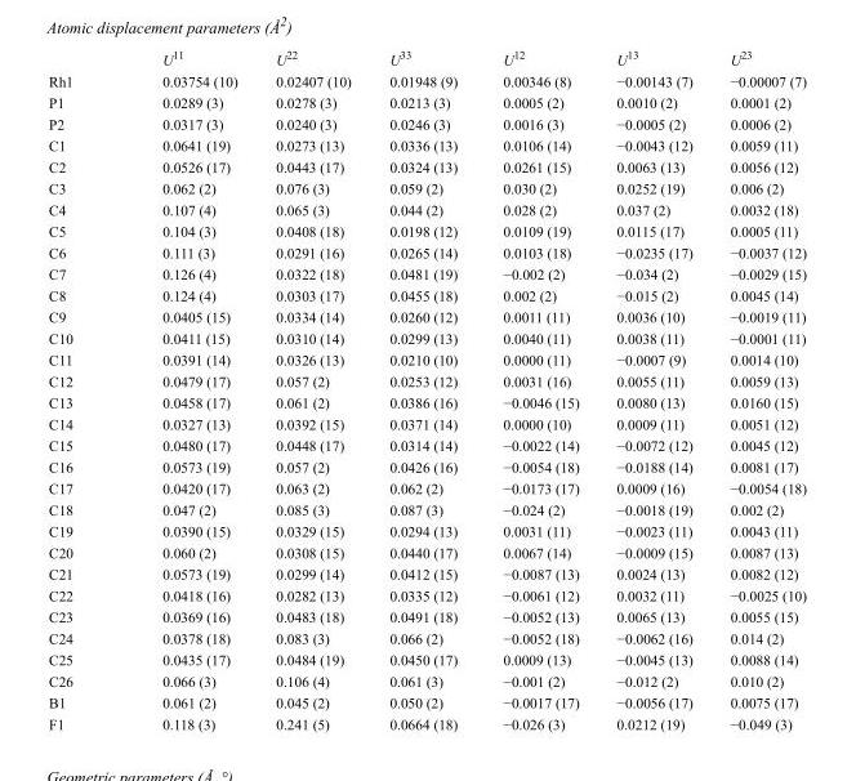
<table><thead><tr><td></td><td>U<sup>11</sup></td><td>U<sup>22</sup></td><td>U<sup>33</sup></td><td>U<sup>12</sup></td><td>U<sup>13</sup></td><td>U<sup>23</sup></td></tr></thead><tbody><tr><td>Rh1</td><td>0.03754 (10)</td><td>0.02407 (10)</td><td>0.01948 (9)</td><td>0.00346 (8)</td><td>−0.00143 (7)</td><td>−0.00007 (7)</td></tr><tr><td>P1</td><td>0.0289 (3)</td><td>0.0278 (3)</td><td>0.0213 (3)</td><td>0.0005 (2)</td><td>0.0010 (2)</td><td>0.0001 (2)</td></tr><tr><td>P2</td><td>0.0317 (3)</td><td>0.0240 (3)</td><td>0.0246 (3)</td><td>0.0016 (3)</td><td>−0.0005 (2)</td><td>0.0006 (2)</td></tr><tr><td>C1</td><td>0.0641 (19)</td><td>0.0273 (13)</td><td>0.0336 (13)</td><td>0.0106 (14)</td><td>−0.0043 (12)</td><td>0.0059 (11)</td></tr><tr><td>C2</td><td>0.0526 (17)</td><td>0.0443 (17)</td><td>0.0324 (13)</td><td>0.0261 (15)</td><td>0.0063 (13)</td><td>0.0056 (12)</td></tr><tr><td>C3</td><td>0.062 (2)</td><td>0.076 (3)</td><td>0.059 (2)</td><td>0.030 (2)</td><td>0.0252 (19)</td><td>0.006 (2)</td></tr><tr><td>C4</td><td>0.107 (4)</td><td>0.065 (3)</td><td>0.044 (2)</td><td>0.028 (2)</td><td>0.037 (2)</td><td>0.0032 (18)</td></tr><tr><td>C5</td><td>0.104 (3)</td><td>0.0408 (18)</td><td>0.0198 (12)</td><td>0.0109 (19)</td><td>0.0115 (17)</td><td>0.0005 (11)</td></tr><tr><td>C6</td><td>0.111 (3)</td><td>0.0291 (16)</td><td>0.0265 (14)</td><td>0.0103 (18)</td><td>−0.0235 (17)</td><td>−0.0037 (12)</td></tr><tr><td>C7</td><td>0.126 (4)</td><td>0.0322 (18)</td><td>0.0481 (19)</td><td>−0.002 (2)</td><td>−0.034 (2)</td><td>−0.0029 (15)</td></tr><tr><td>C8</td><td>0.124 (4)</td><td>0.0303 (17)</td><td>0.0455 (18)</td><td>0.002 (2)</td><td>−0.015 (2)</td><td>0.0045 (14)</td></tr><tr><td>C9</td><td>0.0405 (15)</td><td>0.0334 (14)</td><td>0.0260 (12)</td><td>0.0011 (11)</td><td>0.0036 (10)</td><td>−0.0019 (11)</td></tr><tr><td>C10</td><td>0.0411 (15)</td><td>0.0310 (14)</td><td>0.0299 (13)</td><td>0.0040 (11)</td><td>0.0038 (11)</td><td>−0.0001 (11)</td></tr><tr><td>C11</td><td>0.0391 (14)</td><td>0.0326 (13)</td><td>0.0210 (10)</td><td>0.0000 (11)</td><td>−0.0007 (9)</td><td>0.0014 (10)</td></tr><tr><td>C12</td><td>0.0479 (17)</td><td>0.057 (2)</td><td>0.0253 (12)</td><td>0.0031 (16)</td><td>0.0055 (11)</td><td>0.0059 (13)</td></tr><tr><td>C13</td><td>0.0458 (17)</td><td>0.061 (2)</td><td>0.0386 (16)</td><td>−0.0046 (15)</td><td>0.0080 (13)</td><td>0.0160 (15)</td></tr><tr><td>C14</td><td>0.0327 (13)</td><td>0.0392 (15)</td><td>0.0371 (14)</td><td>0.0000 (10)</td><td>0.0009 (11)</td><td>0.0051 (12)</td></tr><tr><td>C15</td><td>0.0480 (17)</td><td>0.0448 (17)</td><td>0.0314 (14)</td><td>−0.0022 (14)</td><td>−0.0072 (12)</td><td>0.0045 (12)</td></tr><tr><td>C16</td><td>0.0573 (19)</td><td>0.057 (2)</td><td>0.0426 (16)</td><td>−0.0054 (18)</td><td>−0.0188 (14)</td><td>0.0081 (17)</td></tr><tr><td>C17</td><td>0.0420 (17)</td><td>0.063 (2)</td><td>0.062 (2)</td><td>−0.0173 (17)</td><td>0.0009 (16)</td><td>−0.0054 (18)</td></tr><tr><td>C18</td><td>0.047 (2)</td><td>0.085 (3)</td><td>0.087 (3)</td><td>−0.024 (2)</td><td>−0.0018 (19)</td><td>0.002 (2)</td></tr><tr><td>C19</td><td>0.0390 (15)</td><td>0.0329 (15)</td><td>0.0294 (13)</td><td>0.0031 (11)</td><td>−0.0023 (11)</td><td>0.0043 (11)</td></tr><tr><td>C20</td><td>0.060 (2)</td><td>0.0308 (15)</td><td>0.0440 (17)</td><td>0.0067 (14)</td><td>−0.0009 (15)</td><td>0.0087 (13)</td></tr><tr><td>C21</td><td>0.0573 (19)</td><td>0.0299 (14)</td><td>0.0412 (15)</td><td>−0.0087 (13)</td><td>0.0024 (13)</td><td>0.0082 (12)</td></tr><tr><td>C22</td><td>0.0418 (16)</td><td>0.0282 (13)</td><td>0.0335 (12)</td><td>−0.0061 (12)</td><td>0.0032 (11)</td><td>−0.0025 (10)</td></tr><tr><td>C23</td><td>0.0369 (16)</td><td>0.0483 (18)</td><td>0.0491 (18)</td><td>−0.0052 (13)</td><td>0.0065 (13)</td><td>0.0055 (15)</td></tr><tr><td>C24</td><td>0.0378 (18)</td><td>0.083 (3)</td><td>0.066 (2)</td><td>−0.0052 (18)</td><td>−0.0062 (16)</td><td>0.014 (2)</td></tr><tr><td>C25</td><td>0.0435 (17)</td><td>0.0484 (19)</td><td>0.0450 (17)</td><td>0.0009 (13)</td><td>−0.0045 (13)</td><td>0.0088 (14)</td></tr><tr><td>C26</td><td>0.066 (3)</td><td>0.106 (4)</td><td>0.061 (3)</td><td>−0.001 (2)</td><td>−0.012 (2)</td><td>0.010 (2)</td></tr><tr><td>B1</td><td>0.061 (2)</td><td>0.045 (2)</td><td>0.050 (2)</td><td>−0.0017 (17)</td><td>−0.0056 (17)</td><td>0.0075 (17)</td></tr><tr><td>F1</td><td>0.118 (3)</td><td>0.241 (5)</td><td>0.0664 (18)</td><td>−0.026 (3)</td><td>0.0212 (19)</td><td>−0.049 (3)</td></tr></tbody></table>